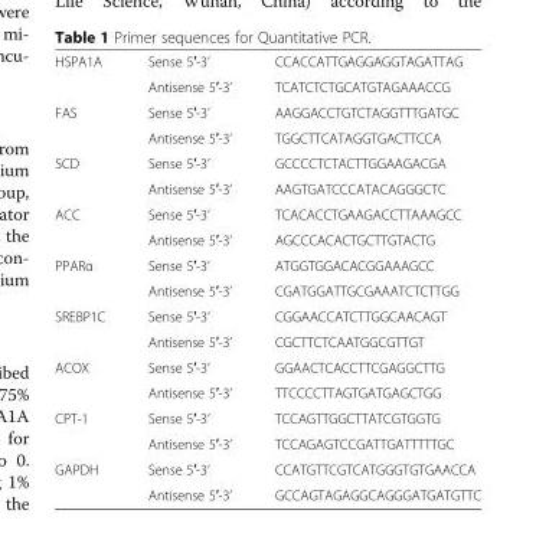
<table><tbody><tr><td rowspan="2">HSPA1A</td><td>Sense 5′-3’</td><td>CCACCATTGAGGAGGTAGATTAG</td></tr><tr><td>Antisense 5′-3’</td><td>TCATCTCTGCATGTAGAAACCG</td></tr><tr><td rowspan="2">FAS</td><td>Sense 5′-3’</td><td>AAGGACCTGTCTAGGTTTGATGC</td></tr><tr><td>Antisense 5′-3’</td><td>TGGCTTCATAGGTGACTTCCA</td></tr><tr><td rowspan="2">SCD</td><td>Sense 5′-3’</td><td>GCCCCTCTACTTGGAAGACGA</td></tr><tr><td>Antisense 5′-3’</td><td>AAGTGATCCCATACAGGGCTC</td></tr><tr><td rowspan="2">ACC</td><td>Sense 5′-3’</td><td>TCACACCTGAAGACCTTAAAGCC</td></tr><tr><td>Antisense 5′-3’</td><td>AGCCCACACTGCTTGTACTG</td></tr><tr><td rowspan="2">PPARα</td><td>Sense 5′-3’</td><td>ATGGTGGACACGGAAAGCC</td></tr><tr><td>Antisense 5′-3’</td><td>CGATGGATTGCGAAATCTCTTGG</td></tr><tr><td rowspan="2">SREBP1C</td><td>Sense 5′-3’</td><td>CGGAACCATCTTGGCAACAGT</td></tr><tr><td>Antisense 5′-3’</td><td>CGCTTCTCAATGGCGTTGT</td></tr><tr><td rowspan="2">ACOX</td><td>Sense 5′-3’</td><td>GGAACTCACCTTCGAGGCTTG</td></tr><tr><td>Antisense 5′-3’</td><td>TTCCCCTTAGTGATGAGCTGG</td></tr><tr><td rowspan="2">CPT-1</td><td>Sense 5′-3’</td><td>TCCAGTTGGCTTATCGTGGTG</td></tr><tr><td>Antisense 5′-3’</td><td>TCCAGAGTCCGATTGATTTTTGC</td></tr><tr><td rowspan="2">GAPDH</td><td>Sense 5′-3’</td><td>CCATGTTCGTCATGGGTGTGAACCA</td></tr><tr><td>Antisense 5′-3’</td><td>GCCAGTAGAGGCAGGGATGATGTTC</td></tr></tbody></table>